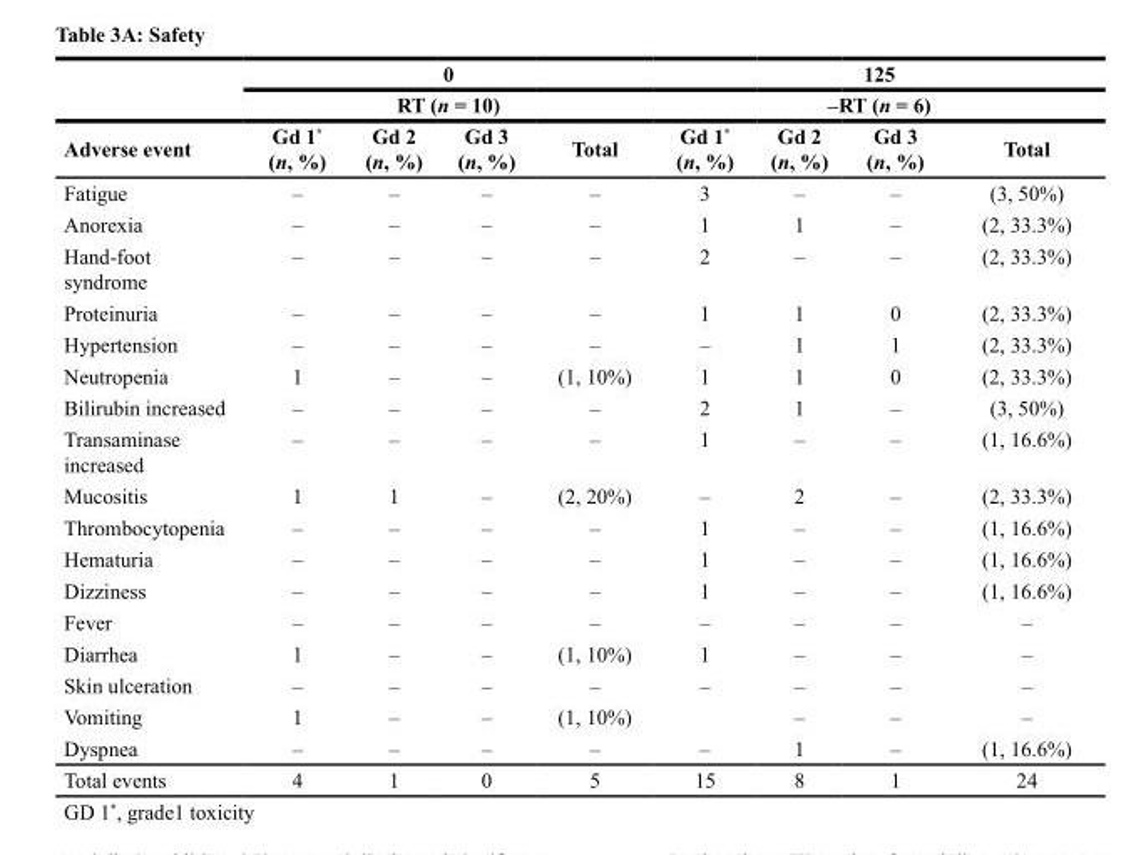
<table><thead><tr><td rowspan="3">Adverse event</td><td rowspan="2" colspan="4">0 RT (n = 10)</td><td rowspan="2" colspan="4">125 –RT (n = 6)</td></tr><tr></tr><tr><td>Gd 1* (n, %)</td><td>Gd 2 (n, %)</td><td>Gd 3 (n, %)</td><td>Total</td><td>Gd 1* (n, %)</td><td>Gd 2 (n, %)</td><td>Gd 3 (n, %)</td><td>Total</td></tr></thead><tbody><tr><td>Fatigue</td><td>–</td><td>–</td><td>–</td><td>–</td><td>3</td><td>–</td><td>–</td><td>(3, 50%)</td></tr><tr><td>Anorexia</td><td>–</td><td>–</td><td>–</td><td>–</td><td>1</td><td>1</td><td>–</td><td>(2, 33.3%)</td></tr><tr><td>Hand-foot syndrome</td><td>–</td><td>–</td><td>–</td><td>–</td><td>2</td><td>–</td><td>–</td><td>(2, 33.3%)</td></tr><tr><td>Proteinuria</td><td>–</td><td>–</td><td>–</td><td>–</td><td>1</td><td>1</td><td>0</td><td>(2, 33.3%)</td></tr><tr><td>Hypertension</td><td>–</td><td>–</td><td>–</td><td>–</td><td>–</td><td>1</td><td>1</td><td>(2, 33.3%)</td></tr><tr><td>Neutropenia</td><td>1</td><td>–</td><td>–</td><td>(1, 10%)</td><td>1</td><td>1</td><td>0</td><td>(2, 33.3%)</td></tr><tr><td>Bilirubin increased</td><td>–</td><td>–</td><td>–</td><td>–</td><td>2</td><td>1</td><td>–</td><td>(3, 50%)</td></tr><tr><td>Transaminase increased</td><td>–</td><td>–</td><td>–</td><td>–</td><td>1</td><td>–</td><td>–</td><td>(1, 16.6%)</td></tr><tr><td>Mucositis</td><td>1</td><td>1</td><td>–</td><td>(2, 20%)</td><td>–</td><td>2</td><td>–</td><td>(2, 33.3%)</td></tr><tr><td>Thrombocytopenia</td><td>–</td><td>–</td><td>–</td><td>–</td><td>1</td><td>–</td><td>–</td><td>(1, 16.6%)</td></tr><tr><td>Hematuria</td><td>–</td><td>–</td><td>–</td><td>–</td><td>1</td><td>–</td><td>–</td><td>(1, 16.6%)</td></tr><tr><td>Dizziness</td><td>–</td><td>–</td><td>–</td><td>–</td><td>1</td><td>–</td><td>–</td><td>(1, 16.6%)</td></tr><tr><td>Fever</td><td>–</td><td>–</td><td>–</td><td>–</td><td>–</td><td>–</td><td>–</td><td>–</td></tr><tr><td>Diarrhea</td><td>1</td><td>–</td><td>–</td><td>(1, 10%)</td><td>1</td><td>–</td><td>–</td><td>–</td></tr><tr><td>Skin ulceration</td><td>–</td><td>–</td><td>–</td><td>–</td><td>–</td><td>–</td><td>–</td><td>–</td></tr><tr><td>Vomiting</td><td>1</td><td>–</td><td>–</td><td>(1, 10%)</td><td></td><td>–</td><td>–</td><td>–</td></tr><tr><td>Dyspnea</td><td>–</td><td>–</td><td>–</td><td>–</td><td>–</td><td>1</td><td>–</td><td>(1, 16.6%)</td></tr><tr><td>Total events</td><td>4</td><td>1</td><td>0</td><td>5</td><td>15</td><td>8</td><td>1</td><td>24</td></tr></tbody></table>